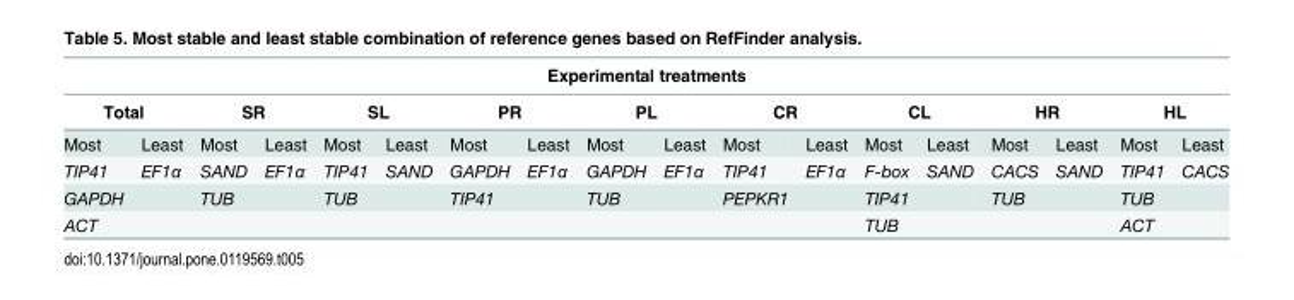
<table><thead><tr><td colspan="18">Experimental treatments</td></tr><tr><td colspan="2">Total</td><td colspan="2">SR</td><td colspan="2">SL</td><td colspan="2">PR</td><td colspan="2">PL</td><td colspan="2">CR</td><td colspan="2">CL</td><td colspan="2">HR</td><td colspan="2">HL</td></tr><tr><td>Most</td><td>Least</td><td>Most</td><td>Least</td><td>Most</td><td>Least</td><td>Most</td><td>Least</td><td>Most</td><td>Least</td><td>Most</td><td>Least</td><td>Most</td><td>Least</td><td>Most</td><td>Least</td><td>Most</td><td>Least</td></tr></thead><tbody><tr><td>TIP41</td><td>EF1α</td><td>SAND</td><td>EF1α</td><td>TIP41</td><td>SAND</td><td>GAPDH</td><td>EF1α</td><td>GAPDH</td><td>EF1α</td><td>TIP41</td><td>EF1α</td><td>F-box</td><td>SAND</td><td>CACS</td><td>SAND</td><td>TIP41</td><td>CACS</td></tr><tr><td>GAPDH</td><td></td><td>TUB</td><td></td><td>TUB</td><td></td><td>TIP41</td><td></td><td>TUB</td><td></td><td>PEPKR1</td><td></td><td>TIP41</td><td></td><td>TUB</td><td></td><td>TUB</td><td></td></tr><tr><td>ACT</td><td></td><td></td><td></td><td></td><td></td><td></td><td></td><td></td><td></td><td></td><td></td><td>TUB</td><td></td><td></td><td></td><td>ACT</td><td></td></tr></tbody></table>